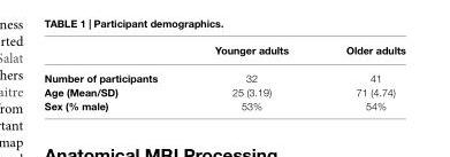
<table><thead><tr><td></td><td>Younger adults</td><td>Older adults</td></tr></thead><tbody><tr><td>Number of participants</td><td>32</td><td>41</td></tr><tr><td>Age (Mean/SD)</td><td>25 (3.19)</td><td>71 (4.74)</td></tr><tr><td>Sex (% male)</td><td>53%</td><td>54%</td></tr></tbody></table>